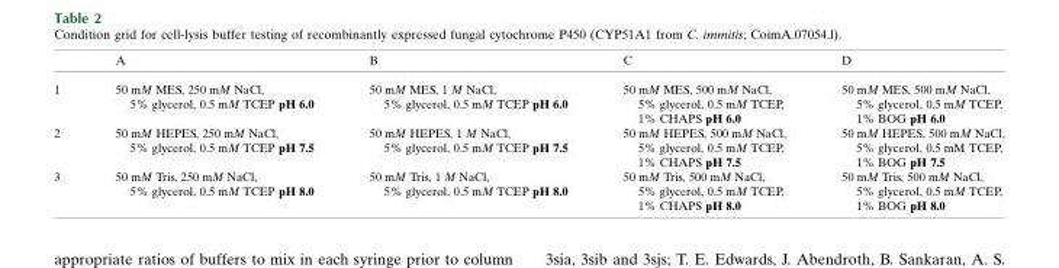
<table><thead><tr><td></td><td>A</td><td>B</td><td>C</td><td>D</td></tr></thead><tbody><tr><td>1</td><td>50 mM MES, 250 mM NaCl, 5% glycerol, 0.5 mM TCEP pH 6.0</td><td>50 mM MES, 1 M NaCl, 5% glycerol, 0.5 mM TCEP pH 6.0</td><td>50 mM MES, 500 mM NaCl, 5% glycerol, 0.5 mM TCEP, 1% CHAPS pH 6.0</td><td>50 mM MES, 500 mM NaCl, 5% glycerol, 0.5 mM TCEP, 1% BOG pH 6.0</td></tr><tr><td>2</td><td>50 mM HEPES, 250 mM NaCl, 5% glycerol, 0.5 mM TCEP pH 7.5</td><td>50 mM HEPES, 1 M NaCl, 5% glycerol, 0.5 mM TCEP pH 7.5</td><td>50 mM HEPES, 500 mM NaCl, 5% glycerol, 0.5 mM TCEP, 1% CHAPS pH 7.5</td><td>50 mM HEPES, 500 mM NaCl, 5% glycerol, 0.5 mM TCEP, 1% BOG pH 7.5</td></tr><tr><td>3</td><td>50 mM Tris, 250 mM NaCl, 5% glycerol, 0.5 mM TCEP pH 8.0</td><td>50 mM Tris, 1 M NaCl, 5% glycerol, 0.5 mM TCEP pH 8.0</td><td>50 mM Tris, 500 mM NaCl, 5% glycerol, 0.5 mM TCEP, 1% CHAPS pH 8.0</td><td>50 mM Tris, 500 mM NaCl, 5% glycerol, 0.5 mM TCEP, 1% BOG pH 8.0</td></tr></tbody></table>